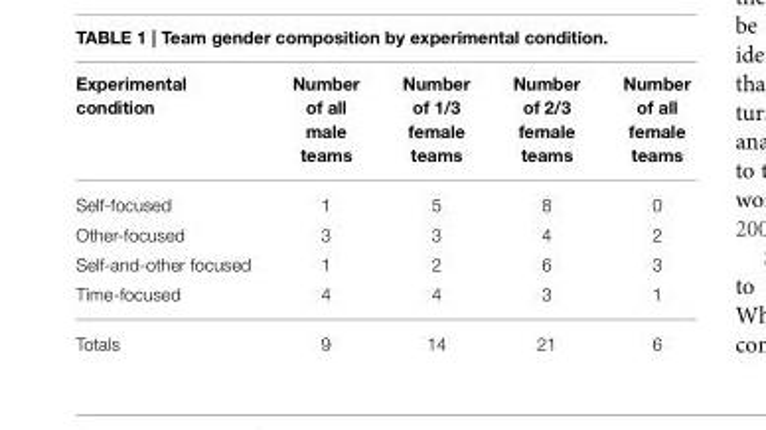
<table><thead><tr><td>Experimental condition</td><td>Number of all male teams</td><td>Number of 1/3 female teams</td><td>Number of 2/3 female teams</td><td>Number of all female teams</td></tr></thead><tbody><tr><td>Self-focused</td><td>1</td><td>5</td><td>8</td><td>0</td></tr><tr><td>Other-focused</td><td>3</td><td>3</td><td>4</td><td>2</td></tr><tr><td>Self-and-other focused</td><td>1</td><td>2</td><td>6</td><td>3</td></tr><tr><td>Time-focused</td><td>4</td><td>4</td><td>3</td><td>1</td></tr><tr><td>Totals</td><td>9</td><td>14</td><td>21</td><td>6</td></tr></tbody></table>